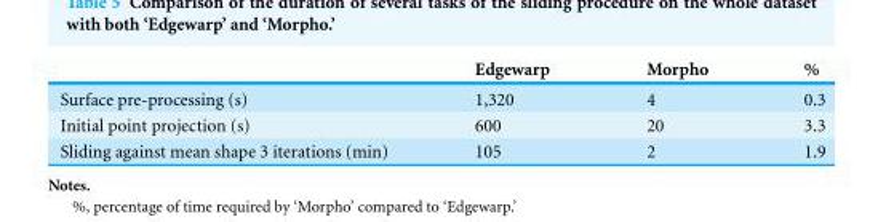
<table><thead><tr><td></td><td>Edgewarp</td><td>Morpho</td><td>%</td></tr></thead><tbody><tr><td>Surface pre-processing (s)</td><td>1,320</td><td>4</td><td>0.3</td></tr><tr><td>Initial point projection (s)</td><td>600</td><td>20</td><td>3.3</td></tr><tr><td>Sliding against mean shape 3 iterations (min)</td><td>105</td><td>2</td><td>1.9</td></tr></tbody></table>